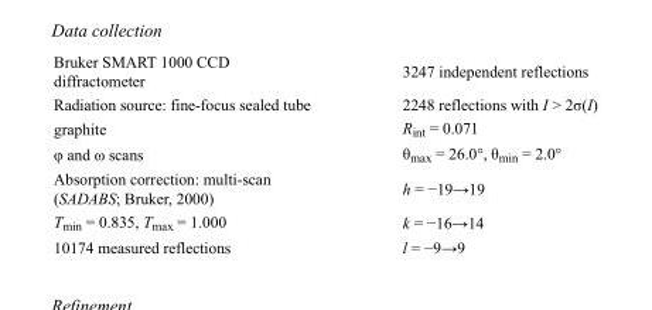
<table><tbody><tr><td>Bruker SMART 1000 CCD diffractometer</td><td>3247 independent reflections</td></tr><tr><td>Radiation source: fine-focus sealed tube</td><td>2248 reflections with I &gt; 2σ(I)</td></tr><tr><td>graphite</td><td>R<sub>int</sub> = 0.071</td></tr><tr><td>φ and ω scans</td><td>θ<sub>max</sub> = 26.0°, θ<sub>min</sub> = 2.0°</td></tr><tr><td>Absorption correction: multi-scan (SADABS; Bruker, 2000)</td><td>h = −19→19</td></tr><tr><td>T<sub>min</sub> = 0.835, T<sub>max</sub> = 1.000</td><td>k = −16→14</td></tr><tr><td>10174 measured reflections</td><td>l = −9→9</td></tr></tbody></table>